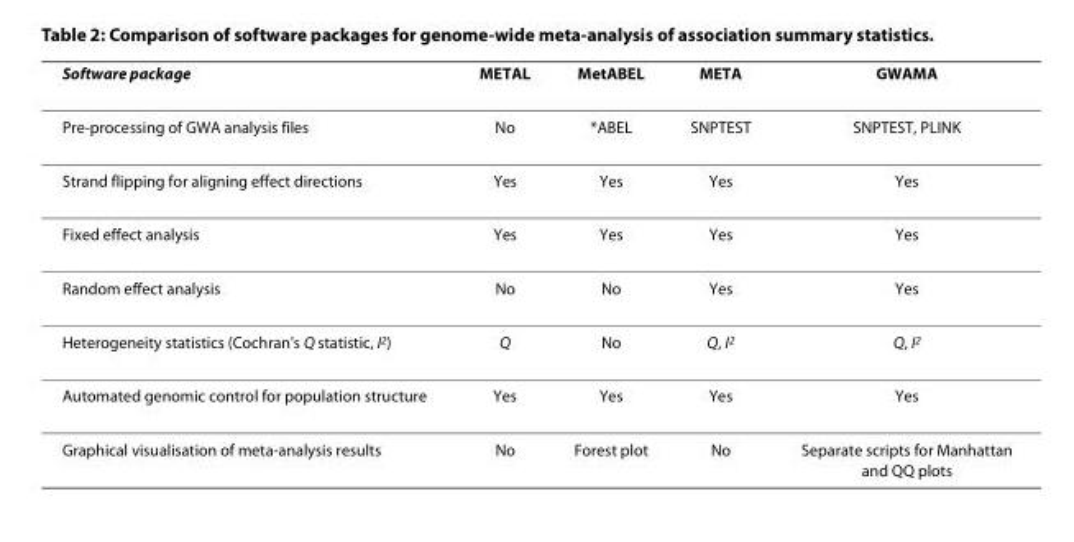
<table><thead><tr><td>Software package</td><td>METAL</td><td>MetABEL</td><td>META</td><td>GWAMA</td></tr></thead><tbody><tr><td>Pre-processing of GWA analysis files</td><td>No</td><td>*ABEL</td><td>SNPTEST</td><td>SNPTEST, PLINK</td></tr><tr><td>Strand flipping for aligning effect directions</td><td>Yes</td><td>Yes</td><td>Yes</td><td>Yes</td></tr><tr><td>Fixed effect analysis</td><td>Yes</td><td>Yes</td><td>Yes</td><td>Yes</td></tr><tr><td>Random effect analysis</td><td>No</td><td>No</td><td>Yes</td><td>Yes</td></tr><tr><td>Heterogeneity statistics (Cochran&#x27;s Q statistic, I<sup>2</sup>)</td><td>Q</td><td>No</td><td>Q, I<sup>2</sup></td><td>Q, I<sup>2</sup></td></tr><tr><td>Automated genomic control for population structure</td><td>Yes</td><td>Yes</td><td>Yes</td><td>Yes</td></tr><tr><td>Graphical visualisation of meta-analysis results</td><td>No</td><td>Forest plot</td><td>No</td><td>Separate scripts for Manhattan and QQ plots</td></tr></tbody></table>